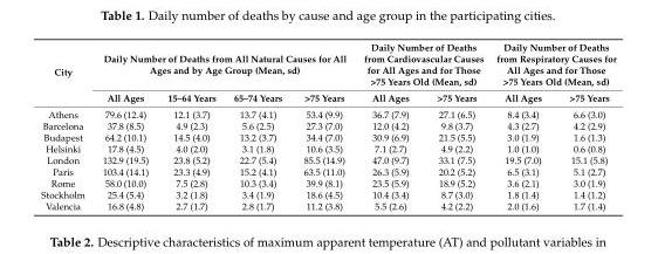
<table><thead><tr><td rowspan="2">City</td><td colspan="4">Daily Number of Deaths from All Natural Causes for All Ages and by Age Group (Mean, sd)</td><td colspan="2">Daily Number of Deaths from Cardiovascular Causes for All Ages and for Those &gt;75 Years Old (Mean, sd)</td><td colspan="2">Daily Number of Deaths from Respiratory Causes for All Ages and for Those &gt;75 Years Old (Mean, sd)</td></tr><tr><td>All Ages</td><td>15–64 Years</td><td>65–74 Years</td><td>&gt;75 Years</td><td>All Ages</td><td>&gt;75 Years</td><td>All Ages</td><td>&gt;75 Years</td></tr></thead><tbody><tr><td>Athens</td><td>79.6 (12.4)</td><td>12.1 (3.7)</td><td>13.7 (4.1)</td><td>53.4 (9.9)</td><td>36.7 (7.9)</td><td>27.1 (6.5)</td><td>8.4 (3.4)</td><td>6.6 (3.0)</td></tr><tr><td>Barcelona</td><td>37.8 (8.5)</td><td>4.9 (2.3)</td><td>5.6 (2.5)</td><td>27.3 (7.0)</td><td>12.0 (4.2)</td><td>9.8 (3.7)</td><td>4.3 (2.7)</td><td>4.2 (2.9)</td></tr><tr><td>Budapest</td><td>64.2 (10.1)</td><td>14.5 (4.0)</td><td>13.2 (3.7)</td><td>34.4 (7.0)</td><td>30.9 (6.9)</td><td>21.5 (5.5)</td><td>3.0 (1.9)</td><td>1.6 (1.3)</td></tr><tr><td>Helsinki</td><td>17.8 (4.5)</td><td>4.0 (2.0)</td><td>3.1 (1.8)</td><td>10.6 (3.5)</td><td>7.1 (2.7)</td><td>4.9 (2.2)</td><td>1.0 (1.0)</td><td>0.6 (0.8)</td></tr><tr><td>London</td><td>132.9 (19.5)</td><td>23.8 (5.2)</td><td>22.7 (5.4)</td><td>85.5 (14.9)</td><td>47.0 (9.7)</td><td>33.1 (7.5)</td><td>19.5 (7.0)</td><td>15.1 (5.8)</td></tr><tr><td>Paris</td><td>103.4 (14.1)</td><td>23.3 (4.9)</td><td>15.2 (4.1)</td><td>63.5 (11.0)</td><td>26.3 (5.9)</td><td>20.2 (5.2)</td><td>6.5 (3.1)</td><td>5.1 (2.7)</td></tr><tr><td>Rome</td><td>58.0 (10.0)</td><td>7.5 (2.8)</td><td>10.3 (3.4)</td><td>39.9 (8.1)</td><td>23.5 (5.9)</td><td>18.9 (5.2)</td><td>3.6 (2.1)</td><td>3.0 (1.9)</td></tr><tr><td>Stockholm</td><td>25.4 (5.4)</td><td>3.2 (1.8)</td><td>3.4 (1.9)</td><td>18.6 (4.5)</td><td>10.4 (3.4)</td><td>8.7 (3.0)</td><td>1.8 (1.4)</td><td>1.4 (1.2)</td></tr><tr><td>Valencia</td><td>16.8 (4.8)</td><td>2.7 (1.7)</td><td>2.8 (1.7)</td><td>11.2 (3.8)</td><td>5.5 (2.6)</td><td>4.2 (2.2)</td><td>2.0 (1.6)</td><td>1.7 (1.4)</td></tr></tbody></table>